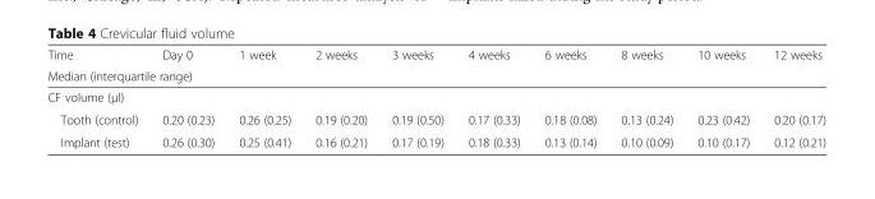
<table><thead><tr><td>Time</td><td>Day 0</td><td>1 week</td><td>2 weeks</td><td>3 weeks</td><td>4 weeks</td><td>6 weeks</td><td>8 weeks</td><td>10 weeks</td><td>12 weeks</td></tr><tr><td colspan="10">Median (interquartile range)</td></tr></thead><tbody><tr><td colspan="10">CF volume (μl)</td></tr><tr><td>Tooth (control)</td><td>0.20 (0.23)</td><td>0.26 (0.25)</td><td>0.19 (0.20)</td><td>0.19 (0.50)</td><td>0.17 (0.33)</td><td>0.18 (0.08)</td><td>0.13 (0.24)</td><td>0.23 (0.42)</td><td>0.20 (0.17)</td></tr><tr><td>Implant (test)</td><td>0.26 (0.30)</td><td>0.25 (0.41)</td><td>0.16 (0.21)</td><td>0.17 (0.19)</td><td>0.18 (0.33)</td><td>0.13 (0.14)</td><td>0.10 (0.09)</td><td>0.10 (0.17)</td><td>0.12 (0.21)</td></tr></tbody></table>